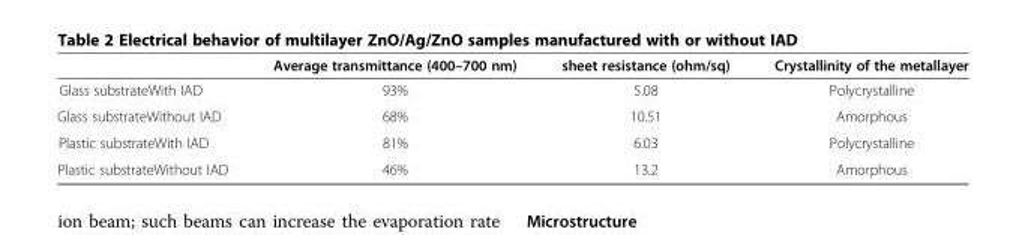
<table><thead><tr><td></td><td>Average transmittance (400–700 nm)</td><td>sheet resistance (ohm/sq)</td><td>Crystallinity of the metallayer</td></tr></thead><tbody><tr><td>Glass substrateWith IAD</td><td>93%</td><td>5.08</td><td>Polycrystalline</td></tr><tr><td>Glass substrateWithout IAD</td><td>68%</td><td>10.51</td><td>Amorphous</td></tr><tr><td>Plastic substrateWith IAD</td><td>81%</td><td>6.03</td><td>Polycrystalline</td></tr><tr><td>Plastic substrateWithout IAD</td><td>46%</td><td>13.2</td><td>Amorphous</td></tr></tbody></table>